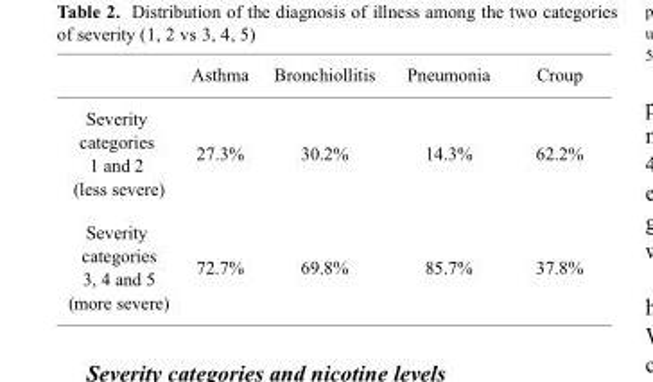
<table><thead><tr><td></td><td>Asthma</td><td>Bronchiollitis</td><td>Pneumonia</td><td>Croup</td></tr></thead><tbody><tr><td>Severity categories 1 and 2 (less severe)</td><td>27.3%</td><td>30.2%</td><td>14.3%</td><td>62.2%</td></tr><tr><td>Severity categories 3, 4 and 5 (more severe)</td><td>72.7%</td><td>69.8%</td><td>85.7%</td><td>37.8%</td></tr></tbody></table>